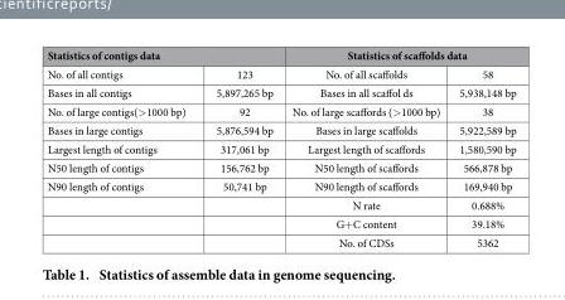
<table><thead><tr><td colspan="2">Statistics of contigs data</td><td colspan="2">Statistics of scaffolds data</td></tr><tr><td>No. of all contigs</td><td>123</td><td>No. of all scaffolds</td><td>58</td></tr></thead><tbody><tr><td>Bases in all contigs</td><td>5,897,265 bp</td><td>Bases in all scaffol ds</td><td>5,938,148 bp</td></tr><tr><td>No. of large contigs(&gt; 1000 bp)</td><td>92</td><td>No. of large scaffords (&gt; 1000 bp)</td><td>38</td></tr><tr><td>Bases in large contigs</td><td>5,876,594 bp</td><td>Bases in large scaffolds</td><td>5,922,589 bp</td></tr><tr><td>Largest length of contigs</td><td>317,061 bp</td><td>Largest length of scaffords</td><td>1,580,590 bp</td></tr><tr><td>N50 length of contigs</td><td>156,762 bp</td><td>N50 length of scaffords</td><td>566,878 bp</td></tr><tr><td rowspan="4">N90 length of contigs</td><td>50,741 bp</td><td>N90 length of scaffords</td><td>169,940 bp</td></tr><tr><td></td><td>N rate</td><td>0.688%</td></tr><tr><td></td><td>G+ C content</td><td>39.18%</td></tr><tr><td></td><td>No. of CDSs</td><td>5362</td></tr></tbody></table>